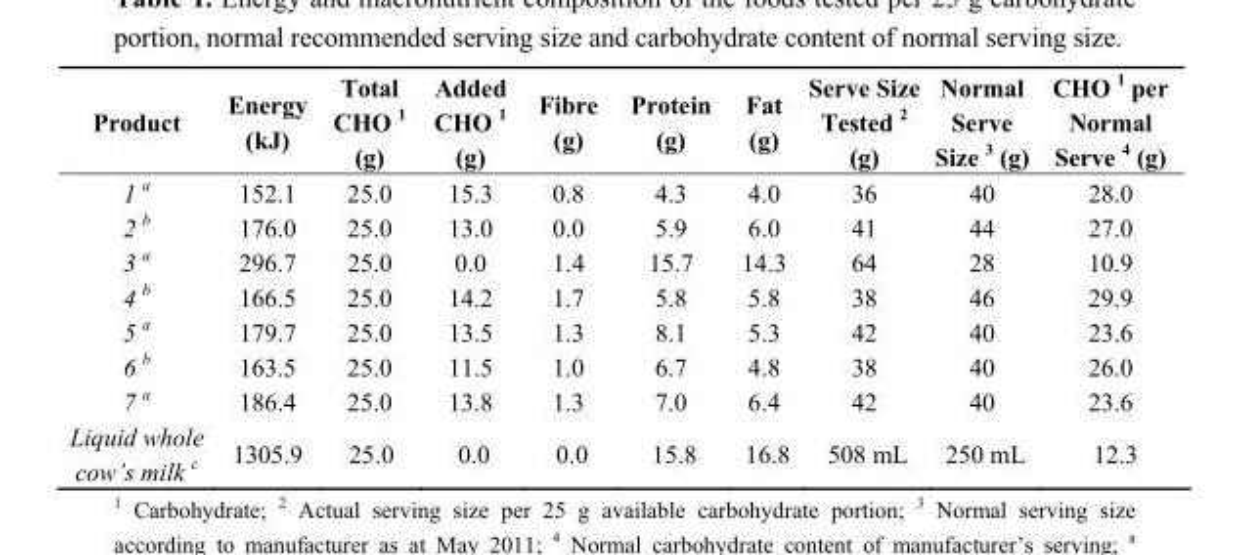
<table><thead><tr><td>Product</td><td>Energy (kJ)</td><td>Total CHO <sup>1</sup> (g)</td><td>Added CHO <sup>1</sup> (g)</td><td>Fibre (g)</td><td>Protein (g)</td><td>Fat (g)</td><td>Serve Size Tested <sup>2</sup> (g)</td><td>Normal Serve Size <sup>3</sup> (g)</td><td>CHO <sup>1</sup> per Normal Serve <sup>4</sup> (g)</td></tr></thead><tbody><tr><td>1 <sup>a</sup></td><td>152.1</td><td>25.0</td><td>15.3</td><td>0.8</td><td>4.3</td><td>4.0</td><td>36</td><td>40</td><td>28.0</td></tr><tr><td>2 <sup>b</sup></td><td>176.0</td><td>25.0</td><td>13.0</td><td>0.0</td><td>5.9</td><td>6.0</td><td>41</td><td>44</td><td>27.0</td></tr><tr><td>3 <sup>a</sup></td><td>296.7</td><td>25.0</td><td>0.0</td><td>1.4</td><td>15.7</td><td>14.3</td><td>64</td><td>28</td><td>10.9</td></tr><tr><td>4 <sup>b</sup></td><td>166.5</td><td>25.0</td><td>14.2</td><td>1.7</td><td>5.8</td><td>5.8</td><td>38</td><td>46</td><td>29.9</td></tr><tr><td>5 <sup>a</sup></td><td>179.7</td><td>25.0</td><td>13.5</td><td>1.3</td><td>8.1</td><td>5.3</td><td>42</td><td>40</td><td>23.6</td></tr><tr><td>6 <sup>b</sup></td><td>163.5</td><td>25.0</td><td>11.5</td><td>1.0</td><td>6.7</td><td>4.8</td><td>38</td><td>40</td><td>26.0</td></tr><tr><td>7 <sup>a</sup></td><td>186.4</td><td>25.0</td><td>13.8</td><td>1.3</td><td>7.0</td><td>6.4</td><td>42</td><td>40</td><td>23.6</td></tr><tr><td>Liquid whole cow’s milk <sup>c</sup></td><td>1305.9</td><td>25.0</td><td>0.0</td><td>0.0</td><td>15.8</td><td>16.8</td><td>508 mL</td><td>250 mL</td><td>12.3</td></tr></tbody></table>